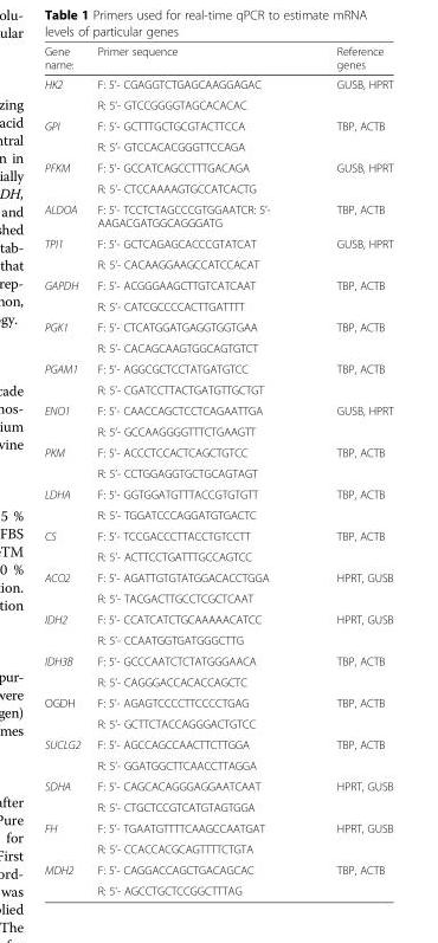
<table><thead><tr><td>Gene name:</td><td>Primer sequence</td><td>Reference genes</td></tr></thead><tbody><tr><td rowspan="2">HK2</td><td>F: 5’- CGAGGTCTGAGCAAGGAGAC</td><td rowspan="2">GUSB, HPRT</td></tr><tr><td>R: 5’- GTCCGGGGTAGCACACAC</td></tr><tr><td rowspan="2">GPI</td><td>F: 5’- GCTTTGCTGCGTACTTCCA</td><td rowspan="2">TBP, ACTB</td></tr><tr><td>R: 5’- GTCCACACGGGTTCCAGA</td></tr><tr><td rowspan="2">PFKM</td><td>F: 5’- GCCATCAGCCTTTGACAGA</td><td rowspan="2">GUSB, HPRT</td></tr><tr><td>R: 5’- CTCCAAAAGTGCCATCACTG</td></tr><tr><td>ALDOA</td><td>F: 5’- TCCTCTAGCCCGTGGAATCR: 5’- AAGACGATGGCAGGGATG</td><td>TBP, ACTB</td></tr><tr><td rowspan="2">TPI1</td><td>F: 5’- GCTCAGAGCACCCGTATCAT</td><td rowspan="2">GUSB, HPRT</td></tr><tr><td>R: 5’- CACAAGGAAGCCATCCACAT</td></tr><tr><td rowspan="2">GAPDH</td><td>F: 5’- ACGGGAAGCTTGTCATCAAT</td><td rowspan="2">TBP, ACTB</td></tr><tr><td>R: 5’- CATCGCCCCACTTGATTTT</td></tr><tr><td rowspan="2">PGK1</td><td>F: 5’- CTCATGGATGAGGTGGTGAA</td><td rowspan="2">TBP, ACTB</td></tr><tr><td>R: 5’- CACAGCAAGTGGCAGTGTCT</td></tr><tr><td rowspan="2">PGAM1</td><td>F: 5’- AGGCGCTCCTATGATGTCC</td><td rowspan="2">TBP, ACTB</td></tr><tr><td>R: 5’- CGATCCTTACTGATGTTGCTGT</td></tr><tr><td rowspan="2">ENO1</td><td>F: 5’- CAACCAGCTCCTCAGAATTGA</td><td rowspan="2">GUSB, HPRT</td></tr><tr><td>R: 5’- GCCAAGGGGTTTCTGAAGTT</td></tr><tr><td rowspan="2">PKM</td><td>F: 5’- ACCCTCCACTCAGCTGTCC</td><td rowspan="2">TBP, ACTB</td></tr><tr><td>R: 5’- CCTGGAGGTGCTGCAGTAGT</td></tr><tr><td rowspan="2">LDHA</td><td>F: 5’- GGTGGATGTTTACCGTGTGTT</td><td rowspan="2">TBP, ACTB</td></tr><tr><td>R: 5’- TGGATCCCAGGATGTGACTC</td></tr><tr><td rowspan="2">CS</td><td>F: 5’- TCCGACCCTTACCTGTCCTT</td><td rowspan="2">TBP, ACTB</td></tr><tr><td>R: 5’- ACTTCCTGATTTGCCAGTCC</td></tr><tr><td rowspan="2">ACO2</td><td>F: 5’- AGATTGTGTATGGACACCTGGA</td><td rowspan="2">HPRT, GUSB</td></tr><tr><td>R: 5’- TACGACTTGCCTCGCTCAAT</td></tr><tr><td rowspan="2">IDH2</td><td>F: 5’- CCATCATCTGCAAAAACATCC</td><td rowspan="2">HPRT, GUSB</td></tr><tr><td>R: 5’- CCAATGGTGATGGGCTTG</td></tr><tr><td rowspan="2">IDH3B</td><td>F: 5’- GCCCAATCTCTATGGGAACA</td><td rowspan="2">TBP, ACTB</td></tr><tr><td>R: 5’- CAGGGACCACACCAGCTC</td></tr><tr><td rowspan="2">OGDH</td><td>F: 5’- AGAGTCCCCTTCCCCTGAG</td><td rowspan="2">TBP, ACTB</td></tr><tr><td>R: 5’- GCTTCTACCAGGGACTGTCC</td></tr><tr><td rowspan="2">SUCLG2</td><td>F: 5’- AGCCAGCCAACTTCTTGGA</td><td rowspan="2">TBP, ACTB</td></tr><tr><td>R: 5’- GGATGGCTTCAACCTTAGGA</td></tr><tr><td rowspan="2">SDHA</td><td>F: 5’- CAGCACAGGGAGGAATCAAT</td><td rowspan="2">HPRT, GUSB</td></tr><tr><td>R: 5’- CTGCTCCGTCATGTAGTGGA</td></tr><tr><td rowspan="2">FH</td><td>F: 5’- TGAATGTTTTCAAGCCAATGAT</td><td rowspan="2">HPRT, GUSB</td></tr><tr><td>R: 5’- CCACCACGCAGTTTTCTGTA</td></tr><tr><td rowspan="2">MDH2</td><td>F: 5’- CAGGACCAGCTGACAGCAC</td><td rowspan="2">TBP, ACTB</td></tr><tr><td>R: 5’- AGCCTGCTCCGGCTTTAG</td></tr></tbody></table>